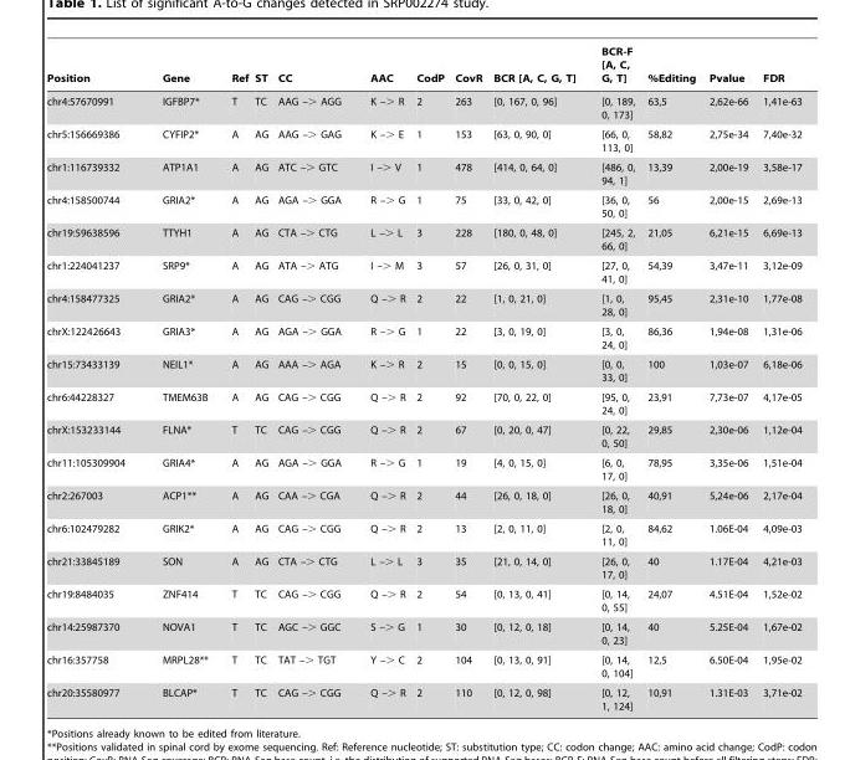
<table><thead><tr><td>Position</td><td>Gene</td><td>Ref</td><td>ST</td><td>CC</td><td>AAC</td><td>CodP</td><td>CovR</td><td>BCR [A, C, G, T]</td><td>BCR-F [A, C, G, T]</td><td>%Editing</td><td>Pvalue</td><td>FDR</td></tr></thead><tbody><tr><td>chr4:57670991</td><td>IGFBP7*</td><td>T</td><td>TC</td><td>AAG –&gt; AGG</td><td>K –&gt; R</td><td>2</td><td>263</td><td>[0, 167, 0, 96]</td><td>[0, 189, 0, 173]</td><td>63,5</td><td>2,62e-66</td><td>1,41e-63</td></tr><tr><td>chr5:156669386</td><td>CYFIP2*</td><td>A</td><td>AG</td><td>AAG –&gt; GAG</td><td>K –&gt; E</td><td>1</td><td>153</td><td>[63, 0, 90, 0]</td><td>[66, 0, 113, 0]</td><td>58,82</td><td>2,75e-34</td><td>7,40e-32</td></tr><tr><td>chr1:116739332</td><td>ATP1A1</td><td>A</td><td>AG</td><td>ATC –&gt; GTC</td><td>I –&gt; V</td><td>1</td><td>478</td><td>[414, 0, 64, 0]</td><td>[486, 0, 94, 1]</td><td>13,39</td><td>2,00e-19</td><td>3,58e-17</td></tr><tr><td>chr4:158500744</td><td>GRIA2*</td><td>A</td><td>AG</td><td>AGA –&gt; GGA</td><td>R –&gt; G</td><td>1</td><td>75</td><td>[33, 0, 42, 0]</td><td>[36, 0, 50, 0]</td><td>56</td><td>2,00e-15</td><td>2,69e-13</td></tr><tr><td>chr19:59638596</td><td>TTYH1</td><td>A</td><td>AG</td><td>CTA –&gt; CTG</td><td>L –&gt; L</td><td>3</td><td>228</td><td>[180, 0, 48, 0]</td><td>[245, 2, 66, 0]</td><td>21,05</td><td>6,21e-15</td><td>6,69e-13</td></tr><tr><td>chr1:224041237</td><td>SRP9*</td><td>A</td><td>AG</td><td>ATA –&gt; ATG</td><td>I –&gt; M</td><td>3</td><td>57</td><td>[26, 0, 31, 0]</td><td>[27, 0, 41, 0]</td><td>54,39</td><td>3,47e-11</td><td>3,12e-09</td></tr><tr><td>chr4:158477325</td><td>GRIA2*</td><td>A</td><td>AG</td><td>CAG –&gt; CGG</td><td>Q –&gt; R</td><td>2</td><td>22</td><td>[1, 0, 21, 0]</td><td>[1, 0, 28, 0]</td><td>95,45</td><td>2,31e-10</td><td>1,77e-08</td></tr><tr><td>chrX:122426643</td><td>GRIA3*</td><td>A</td><td>AG</td><td>AGA –&gt; GGA</td><td>R –&gt; G</td><td>1</td><td>22</td><td>[3, 0, 19, 0]</td><td>[3, 0, 24, 0]</td><td>86,36</td><td>1,94e-08</td><td>1,31e-06</td></tr><tr><td>chr15:73433139</td><td>NEIL1*</td><td>A</td><td>AG</td><td>AAA –&gt; AGA</td><td>K –&gt; R</td><td>2</td><td>15</td><td>[0, 0, 15, 0]</td><td>[0, 0, 33, 0]</td><td>100</td><td>1,03e-07</td><td>6,18e-06</td></tr><tr><td>chr6:44228327</td><td>TMEM63B</td><td>A</td><td>AG</td><td>CAG –&gt; CGG</td><td>Q –&gt; R</td><td>2</td><td>92</td><td>[70, 0, 22, 0]</td><td>[95, 0, 24, 0]</td><td>23,91</td><td>7,73e-07</td><td>4,17e-05</td></tr><tr><td>chrX:153233144</td><td>FLNA*</td><td>T</td><td>TC</td><td>CAG –&gt; CGG</td><td>Q –&gt; R</td><td>2</td><td>67</td><td>[0, 20, 0, 47]</td><td>[0, 22, 0, 50]</td><td>29,85</td><td>2,30e-06</td><td>1,12e-04</td></tr><tr><td>chr11:105309904</td><td>GRIA4*</td><td>A</td><td>AG</td><td>AGA –&gt; GGA</td><td>R –&gt; G</td><td>1</td><td>19</td><td>[4, 0, 15, 0]</td><td>[6, 0, 17, 0]</td><td>78,95</td><td>3,35e-06</td><td>1,51e-04</td></tr><tr><td>chr2:267003</td><td>ACP1**</td><td>A</td><td>AG</td><td>CAA –&gt; CGA</td><td>Q –&gt; R</td><td>2</td><td>44</td><td>[26, 0, 18, 0]</td><td>[26, 0, 18, 0]</td><td>40,91</td><td>5,24e-06</td><td>2,17e-04</td></tr><tr><td>chr6:102479282</td><td>GRIK2*</td><td>A</td><td>AG</td><td>CAG –&gt; CGG</td><td>Q –&gt; R</td><td>2</td><td>13</td><td>[2, 0, 11, 0]</td><td>[2, 0, 11, 0]</td><td>84,62</td><td>1.06E-04</td><td>4,09e-03</td></tr><tr><td>chr21:33845189</td><td>SON</td><td>A</td><td>AG</td><td>CTA –&gt; CTG</td><td>L –&gt; L</td><td>3</td><td>35</td><td>[21, 0, 14, 0]</td><td>[26, 0, 17, 0]</td><td>40</td><td>1.17E-04</td><td>4,21e-03</td></tr><tr><td>chr19:8484035</td><td>ZNF414</td><td>T</td><td>TC</td><td>CAG –&gt; CGG</td><td>Q –&gt; R</td><td>2</td><td>54</td><td>[0, 13, 0, 41]</td><td>[0, 14, 0, 55]</td><td>24,07</td><td>4.51E-04</td><td>1,52e-02</td></tr><tr><td>chr14:25987370</td><td>NOVA1</td><td>T</td><td>TC</td><td>AGC –&gt; GGC</td><td>S –&gt; G</td><td>1</td><td>30</td><td>[0, 12, 0, 18]</td><td>[0, 14, 0, 23]</td><td>40</td><td>5.25E-04</td><td>1,67e-02</td></tr><tr><td>chr16:357758</td><td>MRPL28**</td><td>T</td><td>TC</td><td>TAT –&gt; TGT</td><td>Y –&gt; C</td><td>2</td><td>104</td><td>[0, 13, 0, 91]</td><td>[0, 14, 0, 104]</td><td>12,5</td><td>6.50E-04</td><td>1,95e-02</td></tr><tr><td>chr20:35580977</td><td>BLCAP*</td><td>T</td><td>TC</td><td>CAG –&gt; CGG</td><td>Q –&gt; R</td><td>2</td><td>110</td><td>[0, 12, 0, 98]</td><td>[0, 12, 1, 124]</td><td>10,91</td><td>1.31E-03</td><td>3,71e-02</td></tr></tbody></table>